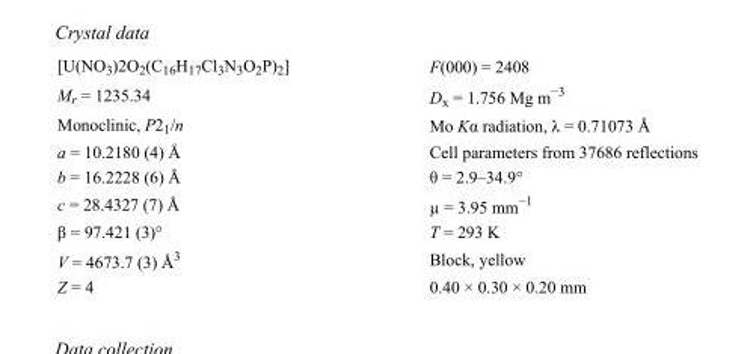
<table><tbody><tr><td>[U(NO<sub>3</sub>)2O<sub>2</sub>(C<sub>16</sub>H<sub>17</sub>Cl<sub>3</sub>N<sub>3</sub>O<sub>2</sub>P)<sub>2</sub>]</td><td>F(000) = 2408</td></tr><tr><td>M<sub>r</sub> = 1235.34</td><td>D<sub>x</sub> = 1.756 Mg m<sup>−3</sup></td></tr><tr><td>Monoclinic, P2<sub>1</sub>/n</td><td>Mo Kα radiation, λ = 0.71073 Å</td></tr><tr><td>a = 10.2180 (4) Å</td><td>Cell parameters from 37686 reflections</td></tr><tr><td>b = 16.2228 (6) Å</td><td>θ = 2.9–34.9°</td></tr><tr><td>c = 28.4327 (7) Å</td><td>µ = 3.95 mm<sup>−1</sup></td></tr><tr><td>β = 97.421 (3)°</td><td>T = 293 K</td></tr><tr><td>V = 4673.7 (3) Å<sup>3</sup></td><td>Block, yellow</td></tr><tr><td>Z = 4</td><td>0.40 × 0.30 × 0.20 mm</td></tr></tbody></table>